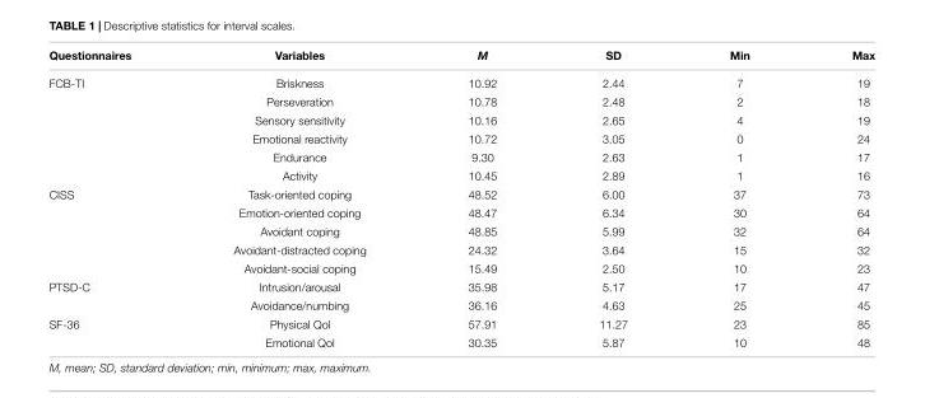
<table><thead><tr><td>Questionnaires</td><td>Variables</td><td>M</td><td>SD</td><td>Min</td><td>Max</td></tr></thead><tbody><tr><td rowspan="6">FCB-TI</td><td>Briskness</td><td>10.92</td><td>2.44</td><td>7</td><td>19</td></tr><tr><td>Perseveration</td><td>10.78</td><td>2.48</td><td>2</td><td>18</td></tr><tr><td>Sensory sensitivity</td><td>10.16</td><td>2.65</td><td>4</td><td>19</td></tr><tr><td>Emotional reactivity</td><td>10.72</td><td>3.05</td><td>0</td><td>24</td></tr><tr><td>Endurance</td><td>9.30</td><td>2.63</td><td>1</td><td>17</td></tr><tr><td>Activity</td><td>10.45</td><td>2.89</td><td>1</td><td>16</td></tr><tr><td rowspan="5">CISS</td><td>Task-oriented coping</td><td>48.52</td><td>6.00</td><td>37</td><td>73</td></tr><tr><td>Emotion-oriented coping</td><td>48.47</td><td>6.34</td><td>30</td><td>64</td></tr><tr><td>Avoidant coping</td><td>48.85</td><td>5.99</td><td>32</td><td>64</td></tr><tr><td>Avoidant-distracted coping</td><td>24.32</td><td>3.64</td><td>15</td><td>32</td></tr><tr><td>Avoidant-social coping</td><td>15.49</td><td>2.50</td><td>10</td><td>23</td></tr><tr><td rowspan="2">PTSD-C</td><td>Intrusion/arousal</td><td>35.98</td><td>5.17</td><td>17</td><td>47</td></tr><tr><td>Avoidance/numbing</td><td>36.16</td><td>4.63</td><td>25</td><td>45</td></tr><tr><td rowspan="2">SF-36</td><td>Physical Qol</td><td>57.91</td><td>11.27</td><td>23</td><td>85</td></tr><tr><td>Emotional Qol</td><td>30.35</td><td>5.87</td><td>10</td><td>48</td></tr></tbody></table>